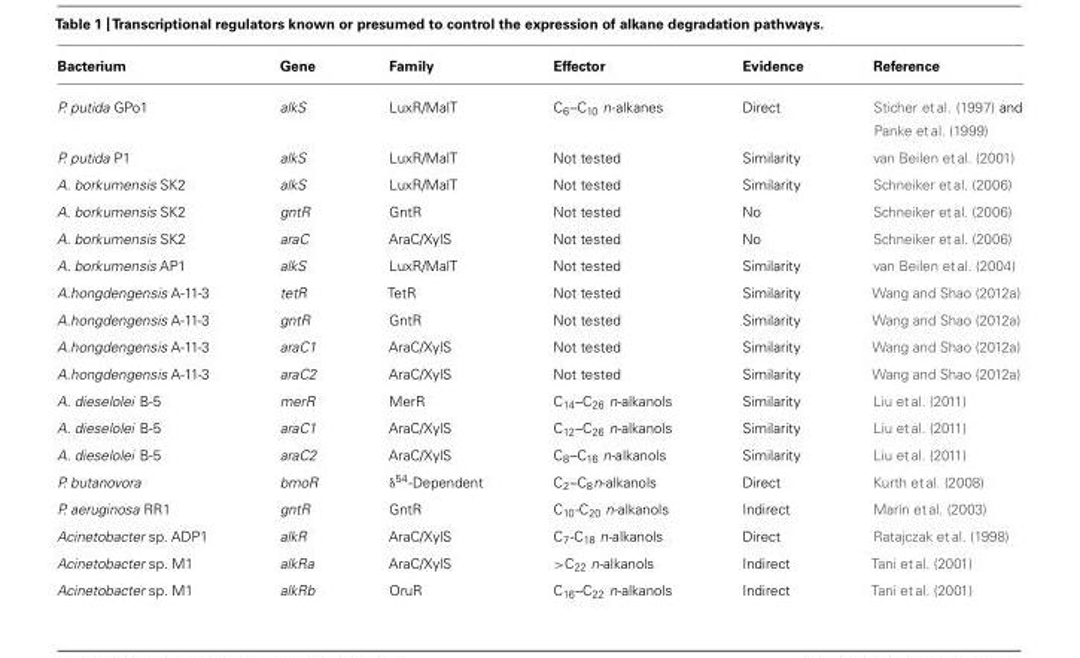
<table><thead><tr><td>Bacterium</td><td>Gene</td><td>Family</td><td>Effector</td><td>Evidence</td><td>Reference</td></tr></thead><tbody><tr><td>P. putida GPo1</td><td>alkS</td><td>LuxR/MalT</td><td>C<sub>6</sub>–C<sub>10</sub> n-alkanes</td><td>Direct</td><td>Sticher et al. (1997) and Panke et al. (1999)</td></tr><tr><td>P. putida P1</td><td>alkS</td><td>LuxR/MalT</td><td>Not tested</td><td>Similarity</td><td>van Beilen et al. (2001)</td></tr><tr><td>A. borkumensis SK2</td><td>alkS</td><td>LuxR/MalT</td><td>Not tested</td><td>Similarity</td><td>Schneiker et al. (2006)</td></tr><tr><td>A. borkumensis SK2</td><td>gntR</td><td>GntR</td><td>Not tested</td><td>No</td><td>Schneiker et al. (2006)</td></tr><tr><td>A. borkumensis SK2</td><td>araC</td><td>AraC/XylS</td><td>Not tested</td><td>No</td><td>Schneiker et al. (2006)</td></tr><tr><td>A. borkumensis AP1</td><td>alkS</td><td>LuxR/MalT</td><td>Not tested</td><td>Similarity</td><td>van Beilen et al. (2004)</td></tr><tr><td>A.hongdengensis A-11-3</td><td>tetR</td><td>TetR</td><td>Not tested</td><td>Similarity</td><td>Wang and Shao (2012a)</td></tr><tr><td>A.hongdengensis A-11-3</td><td>gntR</td><td>GntR</td><td>Not tested</td><td>Similarity</td><td>Wang and Shao (2012a)</td></tr><tr><td>A.hongdengensis A-11-3</td><td>araC1</td><td>AraC/XylS</td><td>Not tested</td><td>Similarity</td><td>Wang and Shao (2012a)</td></tr><tr><td>A.hongdengensis A-11-3</td><td>araC2</td><td>AraC/XylS</td><td>Not tested</td><td>Similarity</td><td>Wang and Shao (2012a)</td></tr><tr><td>A. dieselolei B-5</td><td>merR</td><td>MerR</td><td>C<sub>14</sub>–C<sub>26</sub> n-alkanols</td><td>Similarity</td><td>Liu et al. (2011)</td></tr><tr><td>A. dieselolei B-5</td><td>araC1</td><td>AraC/XylS</td><td>C<sub>12</sub>–C<sub>26</sub> n-alkanols</td><td>Similarity</td><td>Liu et al. (2011)</td></tr><tr><td>A. dieselolei B-5</td><td>araC2</td><td>AraC/XylS</td><td>C<sub>8</sub>–C<sub>16</sub> n-alkanols</td><td>Similarity</td><td>Liu et al. (2011)</td></tr><tr><td>P. butanovora</td><td>bmoR</td><td>δ<sup>54</sup>-Dependent</td><td>C<sub>2</sub>–C<sub>8</sub>n-alkanols</td><td>Direct</td><td>Kurth et al. (2008)</td></tr><tr><td>P. aeruginosa RR1</td><td>gntR</td><td>GntR</td><td>C<sub>10</sub>-C<sub>20</sub> n-alkanols</td><td>Indirect</td><td>Marín et al. (2003)</td></tr><tr><td>Acinetobacter sp. ADP1</td><td>alkR</td><td>AraC/XylS</td><td>C<sub>7</sub>-C<sub>18</sub> n-alkanols</td><td>Direct</td><td>Ratajczak et al. (1998)</td></tr><tr><td>Acinetobacter sp. M1</td><td>alkRa</td><td>AraC/XylS</td><td>&gt;C<sub>22</sub> n-alkanols</td><td>Indirect</td><td>Tani et al. (2001)</td></tr><tr><td>Acinetobacter sp. M1</td><td>alkRb</td><td>OruR</td><td>C<sub>16</sub>–C<sub>22</sub> n-alkanols</td><td>Indirect</td><td>Tani et al. (2001)</td></tr></tbody></table>